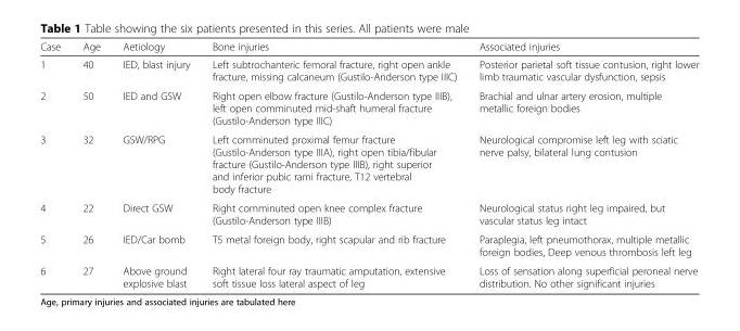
<table><thead><tr><td>Case</td><td>Age</td><td>Aetiology</td><td>Bone injuries</td><td>Associated injuries</td></tr></thead><tbody><tr><td>1</td><td>40</td><td>IED, blast injury</td><td>Left subtrochanteric femoral fracture, right open ankle fracture, missing calcaneum (Gustilo-Anderson type IIIC)</td><td>Posterior parietal soft tissue contusion, right lower limb traumatic vascular dysfunction, sepsis</td></tr><tr><td>2</td><td>50</td><td>IED and GSW</td><td>Right open elbow fracture (Gustilo-Anderson type IIIB), left open comminuted mid-shaft humeral fracture (Gustilo-Anderson type IIIC)</td><td>Brachial and ulnar artery erosion, multiple metallic foreign bodies</td></tr><tr><td>3</td><td>32</td><td>GSW/RPG</td><td>Left comminuted proximal femur fracture (Gustilo-Anderson type IIIA), right open tibia/fibular fracture (Gustilo-Anderson type IIIB), right superior and inferior pubic rami fracture, T12 vertebral body fracture</td><td>Neurological compromise left leg with sciatic nerve palsy, bilateral lung contusion</td></tr><tr><td>4</td><td>22</td><td>Direct GSW</td><td>Right comminuted open knee complex fracture (Gustilo-Anderson type IIIB)</td><td>Neurological status right leg impaired, but vascular status leg intact</td></tr><tr><td>5</td><td>26</td><td>IED/Car bomb</td><td>T5 metal foreign body, right scapular and rib fracture</td><td>Paraplegia, left pneumothorax, multiple metallic foreign bodies, Deep venous thrombosis left leg</td></tr><tr><td>6</td><td>27</td><td>Above ground explosive blast</td><td>Right lateral four ray traumatic amputation, extensive soft tissue loss lateral aspect of leg</td><td>Loss of sensation along superficial peroneal nerve distribution. No other significant injuries</td></tr></tbody></table>